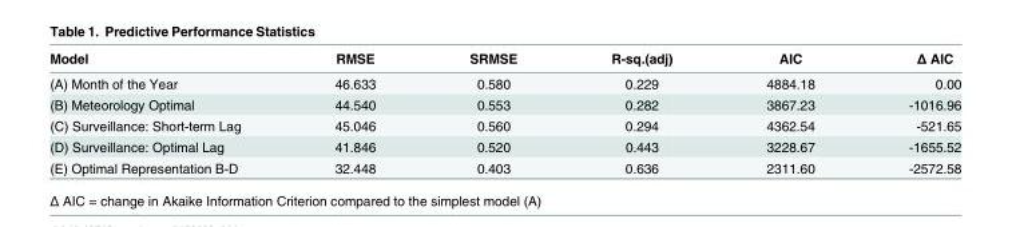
<table><thead><tr><td>Model</td><td>RMSE</td><td>SRMSE</td><td>R-sq.(adj)</td><td>AIC</td><td>Δ AIC</td></tr></thead><tbody><tr><td>(A) Month of the Year</td><td>46.633</td><td>0.580</td><td>0.229</td><td>4884.18</td><td>0.00</td></tr><tr><td>(B) Meteorology Optimal</td><td>44.540</td><td>0.553</td><td>0.282</td><td>3867.23</td><td>-1016.96</td></tr><tr><td>(C) Surveillance: Short-term Lag</td><td>45.046</td><td>0.560</td><td>0.294</td><td>4362.54</td><td>-521.65</td></tr><tr><td>(D) Surveillance: Optimal Lag</td><td>41.846</td><td>0.520</td><td>0.443</td><td>3228.67</td><td>-1655.52</td></tr><tr><td>(E) Optimal Representation B-D</td><td>32.448</td><td>0.403</td><td>0.636</td><td>2311.60</td><td>-2572.58</td></tr></tbody></table>